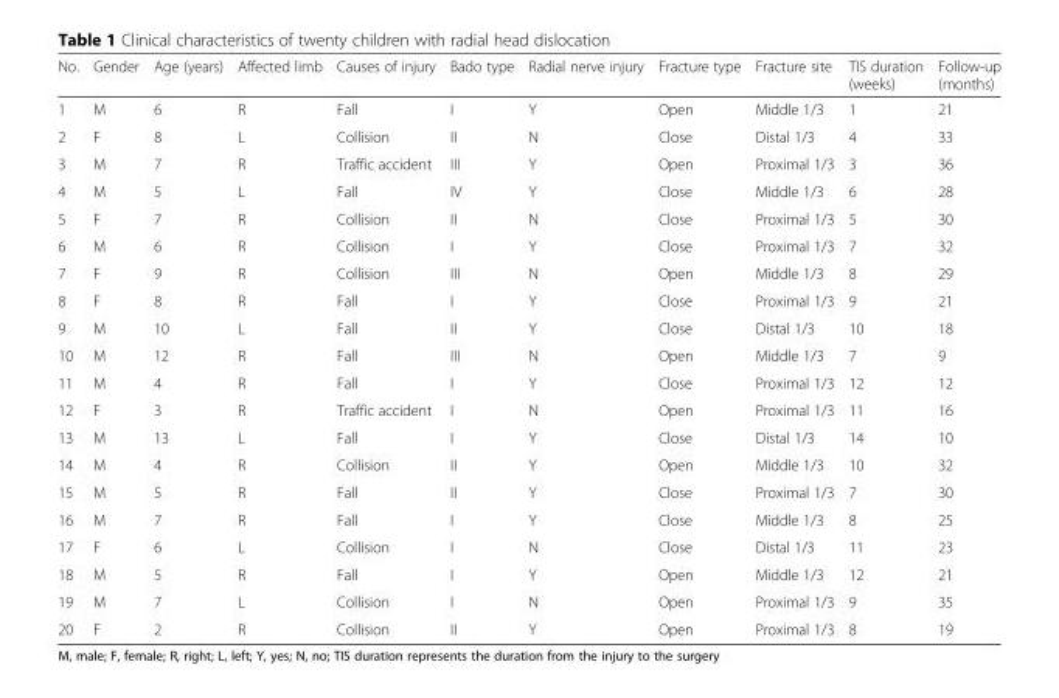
<table><thead><tr><td>No.</td><td>Gender</td><td>Age (years)</td><td>Affected limb</td><td>Causes of injury</td><td>Bado type</td><td>Radial nerve injury</td><td>Fracture type</td><td>Fracture site</td><td>TIS duration (weeks)</td><td>Follow-up (months)</td></tr></thead><tbody><tr><td>1</td><td>M</td><td>6</td><td>R</td><td>Fall</td><td>I</td><td>Y</td><td>Open</td><td>Middle 1/3</td><td>1</td><td>21</td></tr><tr><td>2</td><td>F</td><td>8</td><td>L</td><td>Collision</td><td>II</td><td>N</td><td>Close</td><td>Distal 1/3</td><td>4</td><td>33</td></tr><tr><td>3</td><td>M</td><td>7</td><td>R</td><td>Traffic accident</td><td>III</td><td>Y</td><td>Open</td><td>Proximal 1/3</td><td>3</td><td>36</td></tr><tr><td>4</td><td>M</td><td>5</td><td>L</td><td>Fall</td><td>IV</td><td>Y</td><td>Close</td><td>Middle 1/3</td><td>6</td><td>28</td></tr><tr><td>5</td><td>F</td><td>7</td><td>R</td><td>Collision</td><td>II</td><td>N</td><td>Close</td><td>Proximal 1/3</td><td>5</td><td>30</td></tr><tr><td>6</td><td>M</td><td>6</td><td>R</td><td>Collision</td><td>I</td><td>Y</td><td>Close</td><td>Proximal 1/3</td><td>7</td><td>32</td></tr><tr><td>7</td><td>F</td><td>9</td><td>R</td><td>Collision</td><td>III</td><td>N</td><td>Open</td><td>Middle 1/3</td><td>8</td><td>29</td></tr><tr><td>8</td><td>F</td><td>8</td><td>R</td><td>Fall</td><td>I</td><td>Y</td><td>Close</td><td>Proximal 1/3</td><td>9</td><td>21</td></tr><tr><td>9</td><td>M</td><td>10</td><td>L</td><td>Fall</td><td>II</td><td>Y</td><td>Close</td><td>Distal 1/3</td><td>10</td><td>18</td></tr><tr><td>10</td><td>M</td><td>12</td><td>R</td><td>Fall</td><td>III</td><td>N</td><td>Open</td><td>Middle 1/3</td><td>7</td><td>9</td></tr><tr><td>11</td><td>M</td><td>4</td><td>R</td><td>Fall</td><td>I</td><td>Y</td><td>Close</td><td>Proximal 1/3</td><td>12</td><td>12</td></tr><tr><td>12</td><td>F</td><td>3</td><td>R</td><td>Traffic accident</td><td>I</td><td>N</td><td>Open</td><td>Proximal 1/3</td><td>11</td><td>16</td></tr><tr><td>13</td><td>M</td><td>13</td><td>L</td><td>Fall</td><td>I</td><td>Y</td><td>Close</td><td>Distal 1/3</td><td>14</td><td>10</td></tr><tr><td>14</td><td>M</td><td>4</td><td>R</td><td>Collision</td><td>II</td><td>Y</td><td>Open</td><td>Middle 1/3</td><td>10</td><td>32</td></tr><tr><td>15</td><td>M</td><td>5</td><td>R</td><td>Fall</td><td>II</td><td>Y</td><td>Close</td><td>Proximal 1/3</td><td>7</td><td>30</td></tr><tr><td>16</td><td>M</td><td>7</td><td>R</td><td>Fall</td><td>I</td><td>Y</td><td>Close</td><td>Middle 1/3</td><td>8</td><td>25</td></tr><tr><td>17</td><td>F</td><td>6</td><td>L</td><td>Collision</td><td>I</td><td>N</td><td>Close</td><td>Distal 1/3</td><td>11</td><td>23</td></tr><tr><td>18</td><td>M</td><td>5</td><td>R</td><td>Fall</td><td>I</td><td>Y</td><td>Open</td><td>Middle 1/3</td><td>12</td><td>21</td></tr><tr><td>19</td><td>M</td><td>7</td><td>L</td><td>Collision</td><td>I</td><td>N</td><td>Open</td><td>Proximal 1/3</td><td>9</td><td>35</td></tr><tr><td>20</td><td>F</td><td>2</td><td>R</td><td>Collision</td><td>II</td><td>Y</td><td>Open</td><td>Proximal 1/3</td><td>8</td><td>19</td></tr></tbody></table>